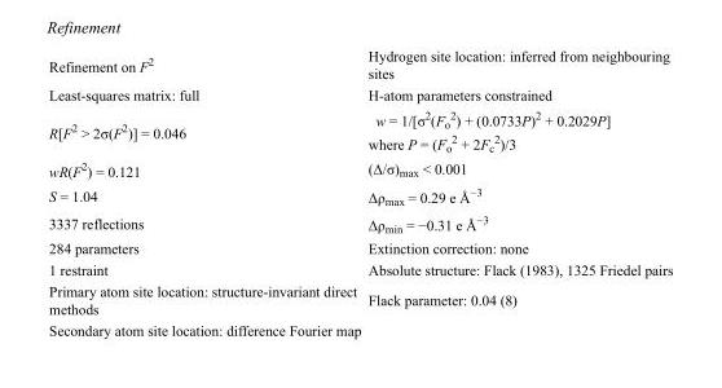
<table><tbody><tr><td>Refinement on F<sup>2</sup></td><td>Hydrogen site location: inferred from neighbouring sites</td></tr><tr><td>Least-squares matrix: full</td><td>H-atom parameters constrained</td></tr><tr><td>R[F<sup>2</sup> &gt; 2σ(F<sup>2</sup>)] = 0.046</td><td>w = 1/[σ<sup>2</sup>(F<sub>o</sub> <sup>2</sup>) + (0.0733P)<sup>2</sup> + 0.2029P] where P = (F<sub>o</sub> <sup>2</sup> + 2F<sub>c</sub> <sup>2</sup>)/3</td></tr><tr><td>wR(F<sup>2</sup>) = 0.121</td><td>(Δ/σ)<sub>max</sub> &lt; 0.001</td></tr><tr><td>S = 1.04</td><td>Δρ<sub>max</sub> = 0.29 e Å<sup>−3</sup></td></tr><tr><td>3337 reflections</td><td>Δρ<sub>min</sub> = −0.31 e Å<sup>−3</sup></td></tr><tr><td>284 parameters</td><td>Extinction correction: none</td></tr><tr><td>1 restraint</td><td>Absolute structure: Flack (1983), 1325 Friedel pairs</td></tr><tr><td>Primary atom site location: structure-invariant direct methods</td><td>Flack parameter: 0.04 (8)</td></tr><tr><td>Secondary atom site location: difference Fourier map</td><td></td></tr></tbody></table>